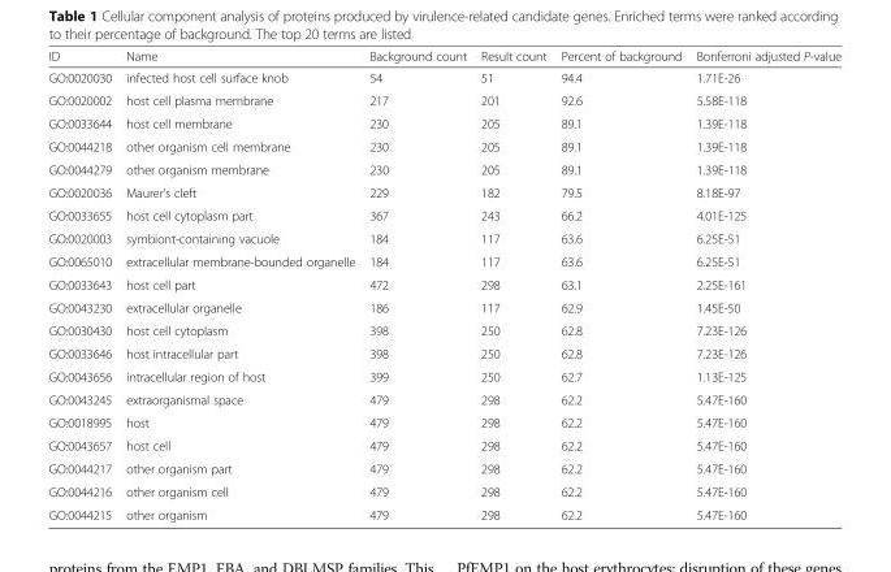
<table><thead><tr><td>ID</td><td>Name</td><td>Background count</td><td>Result count</td><td>Percent of background</td><td>Bonferroni adjusted P-value</td></tr></thead><tbody><tr><td>GO:0020030</td><td>infected host cell surface knob</td><td>54</td><td>51</td><td>94.4</td><td>1.71E-26</td></tr><tr><td>GO:0020002</td><td>host cell plasma membrane</td><td>217</td><td>201</td><td>92.6</td><td>5.58E-118</td></tr><tr><td>GO:0033644</td><td>host cell membrane</td><td>230</td><td>205</td><td>89.1</td><td>1.39E-118</td></tr><tr><td>GO:0044218</td><td>other organism cell membrane</td><td>230</td><td>205</td><td>89.1</td><td>1.39E-118</td></tr><tr><td>GO:0044279</td><td>other organism membrane</td><td>230</td><td>205</td><td>89.1</td><td>1.39E-118</td></tr><tr><td>GO:0020036</td><td>Maurer’s cleft</td><td>229</td><td>182</td><td>79.5</td><td>8.18E-97</td></tr><tr><td>GO:0033655</td><td>host cell cytoplasm part</td><td>367</td><td>243</td><td>66.2</td><td>4.01E-125</td></tr><tr><td>GO:0020003</td><td>symbiont-containing vacuole</td><td>184</td><td>117</td><td>63.6</td><td>6.25E-51</td></tr><tr><td>GO:0065010</td><td>extracellular membrane-bounded organelle</td><td>184</td><td>117</td><td>63.6</td><td>6.25E-51</td></tr><tr><td>GO:0033643</td><td>host cell part</td><td>472</td><td>298</td><td>63.1</td><td>2.25E-161</td></tr><tr><td>GO:0043230</td><td>extracellular organelle</td><td>186</td><td>117</td><td>62.9</td><td>1.45E-50</td></tr><tr><td>GO:0030430</td><td>host cell cytoplasm</td><td>398</td><td>250</td><td>62.8</td><td>7.23E-126</td></tr><tr><td>GO:0033646</td><td>host intracellular part</td><td>398</td><td>250</td><td>62.8</td><td>7.23E-126</td></tr><tr><td>GO:0043656</td><td>intracellular region of host</td><td>399</td><td>250</td><td>62.7</td><td>1.13E-125</td></tr><tr><td>GO:0043245</td><td>extraorganismal space</td><td>479</td><td>298</td><td>62.2</td><td>5.47E-160</td></tr><tr><td>GO:0018995</td><td>host</td><td>479</td><td>298</td><td>62.2</td><td>5.47E-160</td></tr><tr><td>GO:0043657</td><td>host cell</td><td>479</td><td>298</td><td>62.2</td><td>5.47E-160</td></tr><tr><td>GO:0044217</td><td>other organism part</td><td>479</td><td>298</td><td>62.2</td><td>5.47E-160</td></tr><tr><td>GO:0044216</td><td>other organism cell</td><td>479</td><td>298</td><td>62.2</td><td>5.47E-160</td></tr><tr><td>GO:0044215</td><td>other organism</td><td>479</td><td>298</td><td>62.2</td><td>5.47E-160</td></tr></tbody></table>